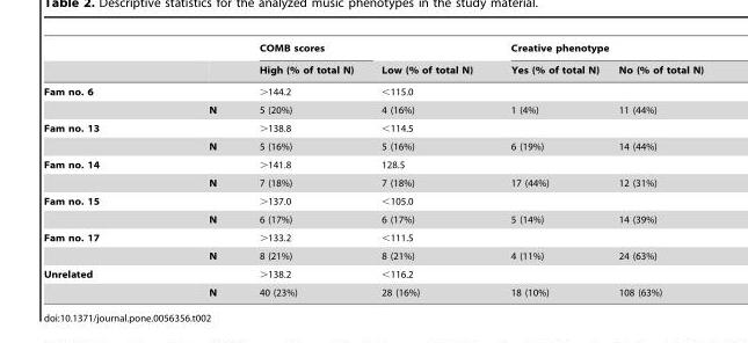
<table><thead><tr><td rowspan="2"></td><td rowspan="2"></td><td rowspan="2">COMB scores High (% of total N)</td><td rowspan="2">Low (% of total N)</td><td colspan="2">Creative phenotype</td></tr><tr><td>Yes (% of total N)</td><td>No (% of total N)</td></tr></thead><tbody><tr><td rowspan="2">Fam no. 6</td><td></td><td>&gt;144.2</td><td>&lt;115.0</td><td></td><td></td></tr><tr><td>N</td><td>5 (20%)</td><td>4 (16%)</td><td>1 (4%)</td><td>11 (44%)</td></tr><tr><td rowspan="2">Fam no. 13</td><td></td><td>&gt;138.8</td><td>&lt;114.5</td><td></td><td></td></tr><tr><td>N</td><td>5 (16%)</td><td>5 (16%)</td><td>6 (19%)</td><td>14 (44%)</td></tr><tr><td rowspan="2">Fam no. 14</td><td></td><td>&gt;141.8</td><td>128.5</td><td></td><td></td></tr><tr><td>N</td><td>7 (18%)</td><td>7 (18%)</td><td>17 (44%)</td><td>12 (31%)</td></tr><tr><td rowspan="2">Fam no. 15</td><td></td><td>&gt;137.0</td><td>&lt;105.0</td><td></td><td></td></tr><tr><td>N</td><td>6 (17%)</td><td>6 (17%)</td><td>5 (14%)</td><td>14 (39%)</td></tr><tr><td rowspan="2">Fam no. 17</td><td></td><td>&gt;133.2</td><td>&lt;111.5</td><td></td><td></td></tr><tr><td>N</td><td>8 (21%)</td><td>8 (21%)</td><td>4 (11%)</td><td>24 (63%)</td></tr><tr><td rowspan="2">Unrelated</td><td></td><td>&gt;138.2</td><td>&lt;116.2</td><td></td><td></td></tr><tr><td>N</td><td>40 (23%)</td><td>28 (16%)</td><td>18 (10%)</td><td>108 (63%)</td></tr></tbody></table>